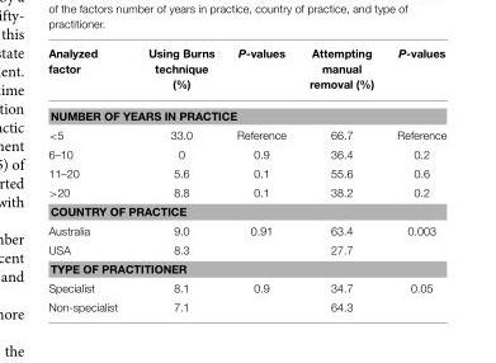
<table><thead><tr><td>Analyzed factor</td><td>Using Burns technique (%)</td><td>P-values</td><td>Attempting manual removal (%)</td><td>P-values</td></tr></thead><tbody><tr><td colspan="5">NUMBER OF YEARS IN PRACTICE</td></tr><tr><td>&lt;5</td><td>33.0</td><td>Reference</td><td>66.7</td><td>Reference</td></tr><tr><td>6–10</td><td>0</td><td>0.9</td><td>36.4</td><td>0.2</td></tr><tr><td>11–20</td><td>5.6</td><td>0.1</td><td>55.6</td><td>0.6</td></tr><tr><td>&gt;20</td><td>8.8</td><td>0.1</td><td>38.2</td><td>0.2</td></tr><tr><td colspan="5">COUNTRY OF PRACTICE</td></tr><tr><td>Australia</td><td>9.0</td><td>0.91</td><td>63.4</td><td>0.003</td></tr><tr><td>USA</td><td>8.3</td><td></td><td>27.7</td><td></td></tr><tr><td colspan="5">TYPE OF PRACTITIONER</td></tr><tr><td>Specialist</td><td>8.1</td><td>0.9</td><td>34.7</td><td>0.05</td></tr><tr><td>Non-specialist</td><td>7.1</td><td></td><td>64.3</td><td></td></tr></tbody></table>